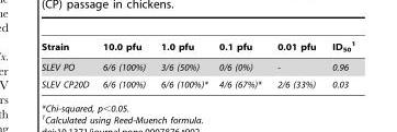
<table><thead><tr><td>Strain</td><td>10.0 pfu</td><td>1.0 pfu</td><td>0.1 pfu</td><td>0.01 pfu</td><td>ID<sub>50</sub> 1</td></tr></thead><tbody><tr><td>SLEV PO</td><td>6/6 (100%)</td><td>3/6 (50%)</td><td>0/6 (0%)</td><td>-</td><td>0.96</td></tr><tr><td>SLEV CP20D</td><td>6/6 (100%)</td><td>6/6 (100%)*</td><td>4/6 (67%)*</td><td>2/6 (33%)</td><td>0.03</td></tr></tbody></table>